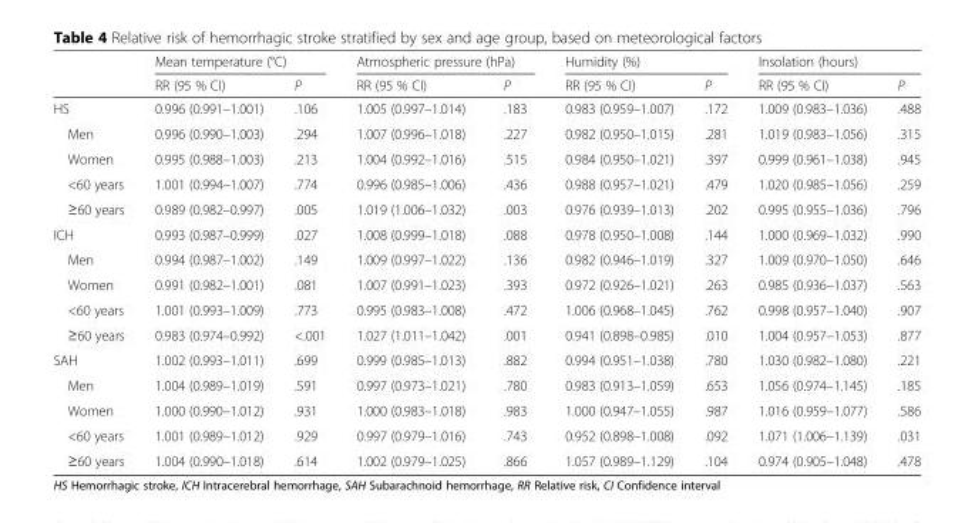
<table><thead><tr><td rowspan="2"></td><td colspan="2">Mean temperature (°C)</td><td colspan="2">Atmospheric pressure (hPa)</td><td colspan="2">Humidity (%)</td><td colspan="2">Insolation (hours)</td></tr><tr><td>RR (95 % CI)</td><td>P</td><td>RR (95 % CI)</td><td>P</td><td>RR (95 % CI)</td><td>P</td><td>RR (95 % CI)</td><td>P</td></tr></thead><tbody><tr><td>HS</td><td>0.996 (0.991–1.001)</td><td>.106</td><td>1.005 (0.997–1.014)</td><td>.183</td><td>0.983 (0.959–1.007)</td><td>.172</td><td>1.009 (0.983–1.036)</td><td>.488</td></tr><tr><td>Men</td><td>0.996 (0.990–1.003)</td><td>.294</td><td>1.007 (0.996–1.018)</td><td>.227</td><td>0.982 (0.950–1.015)</td><td>.281</td><td>1.019 (0.983–1.056)</td><td>.315</td></tr><tr><td>Women</td><td>0.995 (0.988–1.003)</td><td>.213</td><td>1.004 (0.992–1.016)</td><td>.515</td><td>0.984 (0.950–1.021)</td><td>.397</td><td>0.999 (0.961–1.038)</td><td>.945</td></tr><tr><td>&lt;60 years</td><td>1.001 (0.994–1.007)</td><td>.774</td><td>0.996 (0.985–1.006)</td><td>.436</td><td>0.988 (0.957–1.021)</td><td>.479</td><td>1.020 (0.985–1.056)</td><td>.259</td></tr><tr><td>≥60 years</td><td>0.989 (0.982–0.997)</td><td>.005</td><td>1.019 (1.006–1.032)</td><td>.003</td><td>0.976 (0.939–1.013)</td><td>.202</td><td>0.995 (0.955–1.036)</td><td>.796</td></tr><tr><td>ICH</td><td>0.993 (0.987–0.999)</td><td>.027</td><td>1.008 (0.999–1.018)</td><td>.088</td><td>0.978 (0.950–1.008)</td><td>.144</td><td>1.000 (0.969–1.032)</td><td>.990</td></tr><tr><td>Men</td><td>0.994 (0.987–1.002)</td><td>.149</td><td>1.009 (0.997–1.022)</td><td>.136</td><td>0.982 (0.946–1.019)</td><td>.327</td><td>1.009 (0.970–1.050)</td><td>.646</td></tr><tr><td>Women</td><td>0.991 (0.982–1.001)</td><td>.081</td><td>1.007 (0.991–1.023)</td><td>.393</td><td>0.972 (0.926–1.021)</td><td>.263</td><td>0.985 (0.936–1.037)</td><td>.563</td></tr><tr><td>&lt;60 years</td><td>1.001 (0.993–1.009)</td><td>.773</td><td>0.995 (0.983–1.008)</td><td>.472</td><td>1.006 (0.968–1.045)</td><td>.762</td><td>0.998 (0.957–1.040)</td><td>.907</td></tr><tr><td>≥60 years</td><td>0.983 (0.974–0.992)</td><td>&lt;.001</td><td>1.027 (1.011–1.042)</td><td>.001</td><td>0.941 (0.898–0.985)</td><td>.010</td><td>1.004 (0.957–1.053)</td><td>.877</td></tr><tr><td>SAH</td><td>1.002 (0.993–1.011)</td><td>.699</td><td>0.999 (0.985–1.013)</td><td>.882</td><td>0.994 (0.951–1.038)</td><td>.780</td><td>1.030 (0.982–1.080)</td><td>.221</td></tr><tr><td>Men</td><td>1.004 (0.989–1.019)</td><td>.591</td><td>0.997 (0.973–1.021)</td><td>.780</td><td>0.983 (0.913–1.059)</td><td>.653</td><td>1.056 (0.974–1.145)</td><td>.185</td></tr><tr><td>Women</td><td>1.000 (0.990–1.012)</td><td>.931</td><td>1.000 (0.983–1.018)</td><td>.983</td><td>1.000 (0.947–1.055)</td><td>.987</td><td>1.016 (0.959–1.077)</td><td>.586</td></tr><tr><td>&lt;60 years</td><td>1.001 (0.989–1.012)</td><td>.929</td><td>0.997 (0.979–1.016)</td><td>.743</td><td>0.952 (0.898–1.008)</td><td>.092</td><td>1.071 (1.006–1.139)</td><td>.031</td></tr><tr><td>≥60 years</td><td>1.004 (0.990–1.018)</td><td>.614</td><td>1.002 (0.979–1.025)</td><td>.866</td><td>1.057 (0.989–1.129)</td><td>.104</td><td>0.974 (0.905–1.048)</td><td>.478</td></tr></tbody></table>